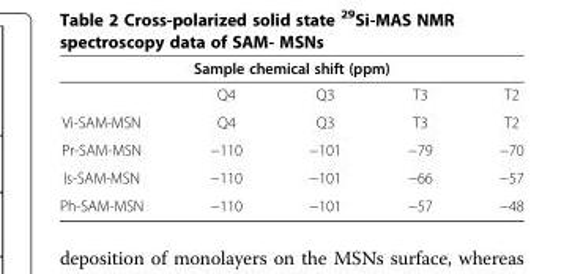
<table><thead><tr><td colspan="5">Sample chemical shift (ppm)</td></tr><tr><td></td><td>Q4</td><td>Q3</td><td>T3</td><td>T2</td></tr></thead><tbody><tr><td>Vi-SAM-MSN</td><td>Q4</td><td>Q3</td><td>T3</td><td>T2</td></tr><tr><td>Pr-SAM-MSN</td><td>−110</td><td>−101</td><td>−79</td><td>−70</td></tr><tr><td>Is-SAM-MSN</td><td>−110</td><td>−101</td><td>−66</td><td>−57</td></tr><tr><td>Ph-SAM-MSN</td><td>−110</td><td>−101</td><td>−57</td><td>−48</td></tr></tbody></table>